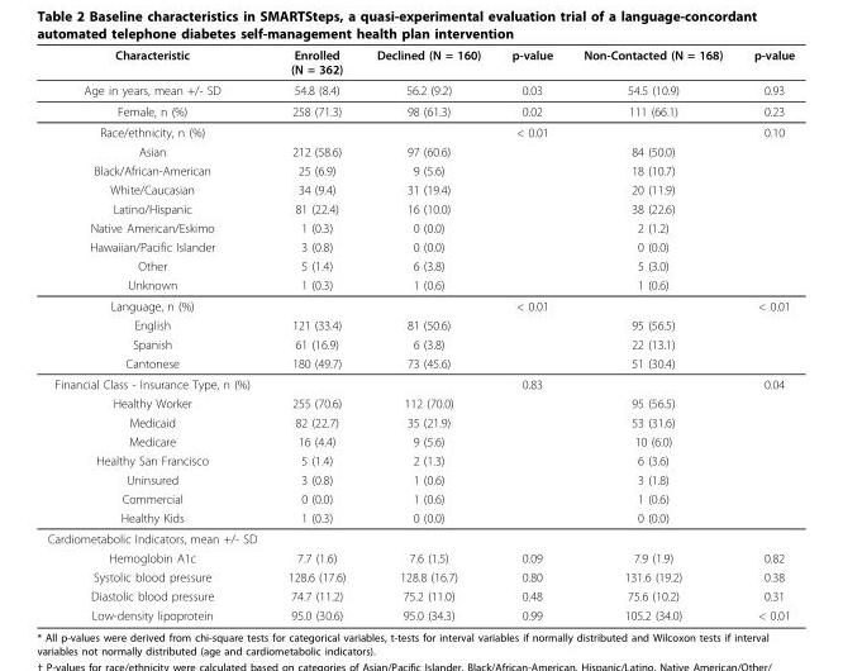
<table><thead><tr><td>Characteristic</td><td>Enrolled (N = 362)</td><td>Declined (N = 160)</td><td>p-value</td><td>Non-Contacted (N = 168)</td><td>p-value</td></tr></thead><tbody><tr><td>Age in years, mean +/- SD</td><td>54.8 (8.4)</td><td>56.2 (9.2)</td><td>0.03</td><td>54.5 (10.9)</td><td>0.93</td></tr><tr><td>Female, n (%)</td><td>258 (71.3)</td><td>98 (61.3)</td><td>0.02</td><td>111 (66.1)</td><td>0.23</td></tr><tr><td>Race/ethnicity, n (%)</td><td></td><td></td><td>&lt; 0.01</td><td></td><td>0.10</td></tr><tr><td>Asian</td><td>212 (58.6)</td><td>97 (60.6)</td><td></td><td>84 (50.0)</td><td></td></tr><tr><td>Black/African-American</td><td>25 (6.9)</td><td>9 (5.6)</td><td></td><td>18 (10.7)</td><td></td></tr><tr><td>White/Caucasian</td><td>34 (9.4)</td><td>31 (19.4)</td><td></td><td>20 (11.9)</td><td></td></tr><tr><td>Latino/Hispanic</td><td>81 (22.4)</td><td>16 (10.0)</td><td></td><td>38 (22.6)</td><td></td></tr><tr><td>Native American/Eskimo</td><td>1 (0.3)</td><td>0 (0.0)</td><td></td><td>2 (1.2)</td><td></td></tr><tr><td>Hawaiian/Pacific Islander</td><td>3 (0.8)</td><td>0 (0.0)</td><td></td><td>0 (0.0)</td><td></td></tr><tr><td>Other</td><td>5 (1.4)</td><td>6 (3.8)</td><td></td><td>5 (3.0)</td><td></td></tr><tr><td>Unknown</td><td>1 (0.3)</td><td>1 (0.6)</td><td></td><td>1 (0.6)</td><td></td></tr><tr><td>Language, n (%)</td><td></td><td></td><td>&lt; 0.01</td><td></td><td>&lt; 0.01</td></tr><tr><td>English</td><td>121 (33.4)</td><td>81 (50.6)</td><td></td><td>95 (56.5)</td><td></td></tr><tr><td>Spanish</td><td>61 (16.9)</td><td>6 (3.8)</td><td></td><td>22 (13.1)</td><td></td></tr><tr><td>Cantonese</td><td>180 (49.7)</td><td>73 (45.6)</td><td></td><td>51 (30.4)</td><td></td></tr><tr><td>Financial Class - Insurance Type, n (%)</td><td></td><td></td><td>0.83</td><td></td><td>0.04</td></tr><tr><td>Healthy Worker</td><td>255 (70.6)</td><td>112 (70.0)</td><td></td><td>95 (56.5)</td><td></td></tr><tr><td>Medicaid</td><td>82 (22.7)</td><td>35 (21.9)</td><td></td><td>53 (31.6)</td><td></td></tr><tr><td>Medicare</td><td>16 (4.4)</td><td>9 (5.6)</td><td></td><td>10 (6.0)</td><td></td></tr><tr><td>Healthy San Francisco</td><td>5 (1.4)</td><td>2 (1.3)</td><td></td><td>6 (3.6)</td><td></td></tr><tr><td>Uninsured</td><td>3 (0.8)</td><td>1 (0.6)</td><td></td><td>3 (1.8)</td><td></td></tr><tr><td>Commercial</td><td>0 (0.0)</td><td>1 (0.6)</td><td></td><td>1 (0.6)</td><td></td></tr><tr><td>Healthy Kids</td><td>1 (0.3)</td><td>0 (0.0)</td><td></td><td>0 (0.0)</td><td></td></tr><tr><td colspan="6">Cardiometabolic Indicators, mean +/- SD</td></tr><tr><td>Hemoglobin A1c</td><td>7.7 (1.6)</td><td>7.6 (1.5)</td><td>0.09</td><td>7.9 (1.9)</td><td>0.82</td></tr><tr><td>Systolic blood pressure</td><td>128.6 (17.6)</td><td>128.8 (16.7)</td><td>0.80</td><td>131.6 (19.2)</td><td>0.38</td></tr><tr><td>Diastolic blood pressure</td><td>74.7 (11.2)</td><td>75.2 (11.0)</td><td>0.48</td><td>75.6 (10.2)</td><td>0.31</td></tr><tr><td>Low-density lipoprotein</td><td>95.0 (30.6)</td><td>95.0 (34.3)</td><td>0.99</td><td>105.2 (34.0)</td><td>&lt; 0.01</td></tr></tbody></table>